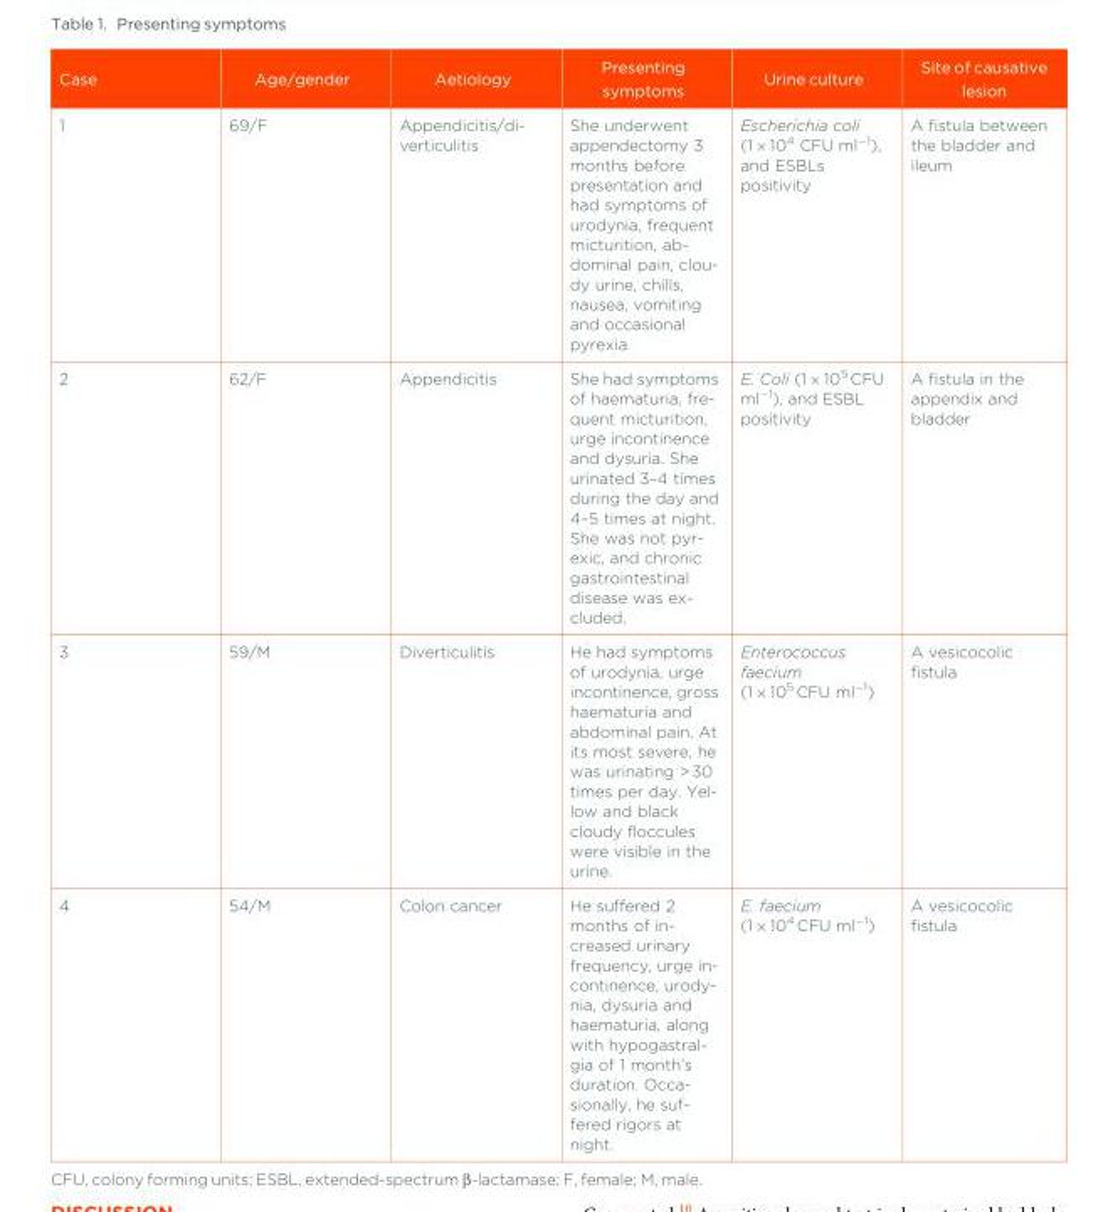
<table><thead><tr><td>Case</td><td>Age/gender</td><td>Aetiology</td><td>Presenting symptoms</td><td>Urine culture</td><td>Site of causative lesion</td></tr></thead><tbody><tr><td>1</td><td>69/F</td><td>Appendicitis/di- verticulitis</td><td>She underwent appendectomy 3 months before presentation and had symptoms of urodynia, frequent micturition, ab- dominal pain, clou- dy urine, chills, nausea, vomiting and occasional pyrexia</td><td>Escherichia coli (1 × 10<sup>4</sup> CFU ml<sup>−1</sup>), and ESBLs positivity</td><td>A fistula between the bladder and ileum</td></tr><tr><td>2</td><td>62/F</td><td>Appendicitis</td><td>She had symptoms of haematuria, fre- quent micturition, urge incontinence and dysuria. She urinated 3–4 times during the day and 4–5 times at night. She was not pyr- exic, and chronic gastrointestinal disease was ex- cluded.</td><td>E. Coli (1 × 10<sup>5</sup> CFU ml<sup>−1</sup>), and ESBL positivity</td><td>A fistula in the appendix and bladder</td></tr><tr><td>3</td><td>59/M</td><td>Diverticulitis</td><td>He had symptoms of urodynia, urge incontinence, gross haematuria and abdominal pain. At its most severe, he was urinating &gt; 30 times per day. Yel- low and black cloudy floccules were visible in the urine.</td><td>Enterococcus faecium (1 × 10<sup>5</sup> CFU ml<sup>−1</sup>)</td><td>A vesicocolic fistula</td></tr><tr><td>4</td><td>54/M</td><td>Colon cancer</td><td>He suffered 2 months of in- creased urinary frequency, urge in- continence, urody- nia, dysuria and haematuria, along with hypogastral- gia of 1 month’s duration. Occa- sionally, he suf- fered rigors at night.</td><td>E. faecium (1 × 10<sup>4</sup> CFU ml<sup>−1</sup>)</td><td>A vesicocolic fistula</td></tr></tbody></table>